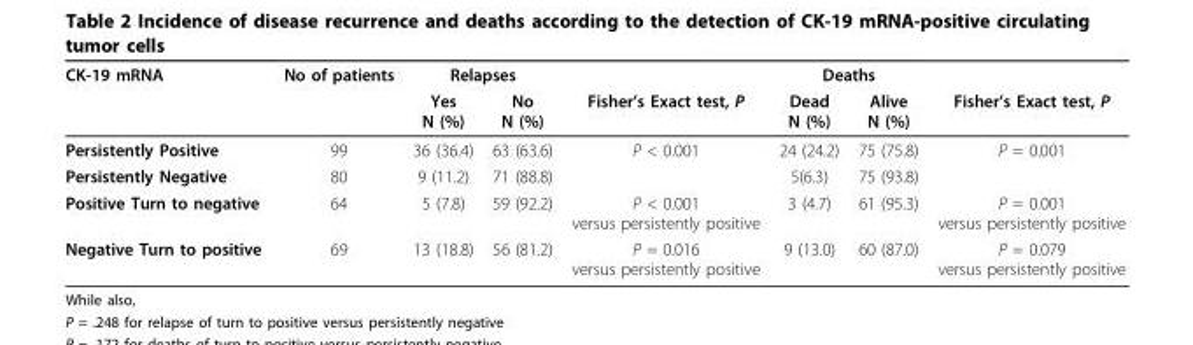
<table><thead><tr><td rowspan="2">CK-19 mRNA</td><td rowspan="2">No of patients</td><td colspan="2">Relapses</td><td rowspan="2">Fisher’s Exact test, P</td><td colspan="2">Deaths</td><td rowspan="2">Fisher’s Exact test, P</td></tr><tr><td>Yes N (%)</td><td>No N (%)</td><td>Dead N (%)</td><td>Alive N (%)</td></tr></thead><tbody><tr><td>Persistently Positive</td><td>99</td><td>36 (36.4)</td><td>63 (63.6)</td><td>P &lt; 0.001</td><td>24 (24.2)</td><td>75 (75.8)</td><td>P = 0.001</td></tr><tr><td>Persistently Negative</td><td>80</td><td>9 (11.2)</td><td>71 (88.8)</td><td></td><td>5(6.3)</td><td>75 (93.8)</td><td></td></tr><tr><td>Positive Turn to negative</td><td>64</td><td>5 (7.8)</td><td>59 (92.2)</td><td>P &lt; 0.001 versus persistently positive</td><td>3 (4.7)</td><td>61 (95.3)</td><td>P = 0.001 versus persistently positive</td></tr><tr><td>Negative Turn to positive</td><td>69</td><td>13 (18.8)</td><td>56 (81.2)</td><td>P = 0.016 versus persistently positive</td><td>9 (13.0)</td><td>60 (87.0)</td><td>P = 0.079 versus persistently positive</td></tr></tbody></table>